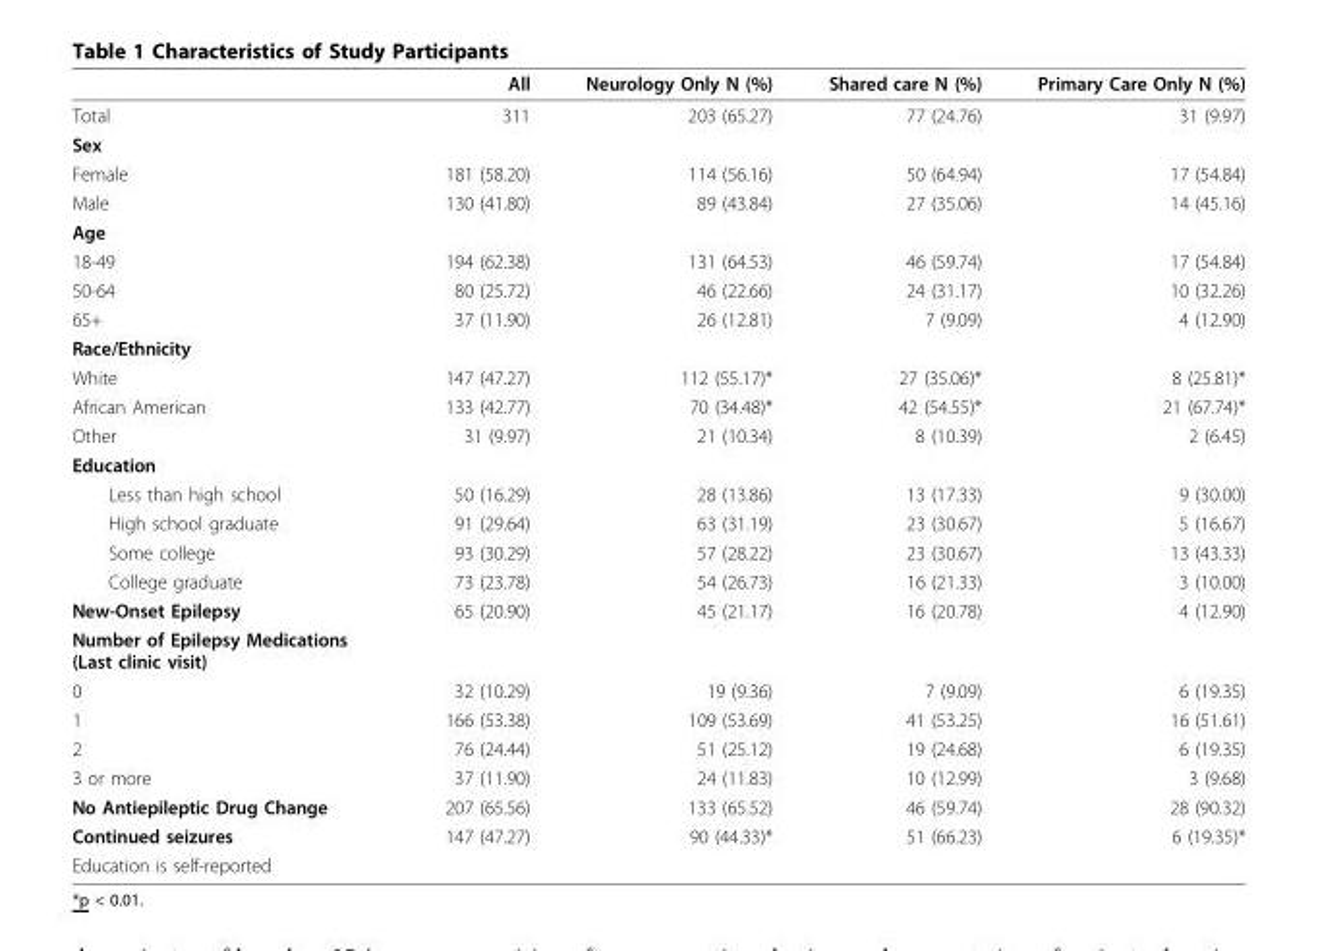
<table><thead><tr><td></td><td>All</td><td>Neurology Only N (%)</td><td>Shared care N (%)</td><td>Primary Care Only N (%)</td></tr></thead><tbody><tr><td>Total</td><td>311</td><td>203 (65.27)</td><td>77 (24.76)</td><td>31 (9.97)</td></tr><tr><td colspan="5">Sex</td></tr><tr><td>Female</td><td>181 (58.20)</td><td>114 (56.16)</td><td>50 (64.94)</td><td>17 (54.84)</td></tr><tr><td>Male</td><td>130 (41.80)</td><td>89 (43.84)</td><td>27 (35.06)</td><td>14 (45.16)</td></tr><tr><td colspan="5">Age</td></tr><tr><td>18-49</td><td>194 (62.38)</td><td>131 (64.53)</td><td>46 (59.74)</td><td>17 (54.84)</td></tr><tr><td>50-64</td><td>80 (25.72)</td><td>46 (22.66)</td><td>24 (31.17)</td><td>10 (32.26)</td></tr><tr><td>65+</td><td>37 (11.90)</td><td>26 (12.81)</td><td>7 (9.09)</td><td>4 (12.90)</td></tr><tr><td colspan="5">Race/Ethnicity</td></tr><tr><td>White</td><td>147 (47.27)</td><td>112 (55.17)*</td><td>27 (35.06)*</td><td>8 (25.81)*</td></tr><tr><td>African American</td><td>133 (42.77)</td><td>70 (34.48)*</td><td>42 (54.55)*</td><td>21 (67.74)*</td></tr><tr><td>Other</td><td>31 (9.97)</td><td>21 (10.34)</td><td>8 (10.39)</td><td>2 (6.45)</td></tr><tr><td colspan="5">Education</td></tr><tr><td>Less than high school</td><td>50 (16.29)</td><td>28 (13.86)</td><td>13 (17.33)</td><td>9 (30.00)</td></tr><tr><td>High school graduate</td><td>91 (29.64)</td><td>63 (31.19)</td><td>23 (30.67)</td><td>5 (16.67)</td></tr><tr><td>Some college</td><td>93 (30.29)</td><td>57 (28.22)</td><td>23 (30.67)</td><td>13 (43.33)</td></tr><tr><td>College graduate</td><td>73 (23.78)</td><td>54 (26.73)</td><td>16 (21.33)</td><td>3 (10.00)</td></tr><tr><td>New-Onset Epilepsy</td><td>65 (20.90)</td><td>45 (21.17)</td><td>16 (20.78)</td><td>4 (12.90)</td></tr><tr><td colspan="5">Number of Epilepsy Medications (Last clinic visit)</td></tr><tr><td>0</td><td>32 (10.29)</td><td>19 (9.36)</td><td>7 (9.09)</td><td>6 (19.35)</td></tr><tr><td>1</td><td>166 (53.38)</td><td>109 (53.69)</td><td>41 (53.25)</td><td>16 (51.61)</td></tr><tr><td>2</td><td>76 (24.44)</td><td>51 (25.12)</td><td>19 (24.68)</td><td>6 (19.35)</td></tr><tr><td>3 or more</td><td>37 (11.90)</td><td>24 (11.83)</td><td>10 (12.99)</td><td>3 (9.68)</td></tr><tr><td>No Antiepileptic Drug Change</td><td>207 (65.56)</td><td>133 (65.52)</td><td>46 (59.74)</td><td>28 (90.32)</td></tr><tr><td>Continued seizures</td><td>147 (47.27)</td><td>90 (44.33)*</td><td>51 (66.23)</td><td>6 (19.35)*</td></tr><tr><td>Education is self-reported</td><td></td><td></td><td></td><td></td></tr></tbody></table>